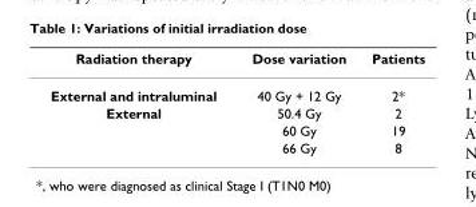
<table><thead><tr><td>Radiation therapy</td><td>Dose variation</td><td>Patients</td></tr></thead><tbody><tr><td>External and intraluminal</td><td>40 Gy + 12 Gy</td><td>2*</td></tr><tr><td rowspan="3">External</td><td>50.4 Gy</td><td>2</td></tr><tr><td>60 Gy</td><td>19</td></tr><tr><td>66 Gy</td><td>8</td></tr></tbody></table>